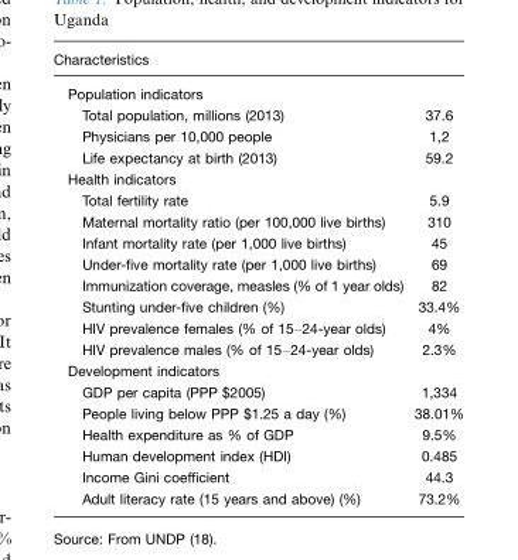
<table><thead><tr><td>Characteristics</td><td></td></tr></thead><tbody><tr><td colspan="2">Population indicators</td></tr><tr><td>Total population, millions (2013)</td><td>37.6</td></tr><tr><td>Physicians per 10,000 people</td><td>1,2</td></tr><tr><td>Life expectancy at birth (2013)</td><td>59.2</td></tr><tr><td colspan="2">Health indicators</td></tr><tr><td>Total fertility rate</td><td>5.9</td></tr><tr><td>Maternal mortality ratio (per 100,000 live births)</td><td>310</td></tr><tr><td>Infant mortality rate (per 1,000 live births)</td><td>45</td></tr><tr><td>Under-five mortality rate (per 1,000 live births)</td><td>69</td></tr><tr><td>Immunization coverage, measles (% of 1 year olds)</td><td>82</td></tr><tr><td>Stunting under-five children (%)</td><td>33.4%</td></tr><tr><td>HIV prevalence females (% of 15–24-year olds)</td><td>4%</td></tr><tr><td>HIV prevalence males (% of 15–24-year olds)</td><td>2.3%</td></tr><tr><td colspan="2">Development indicators</td></tr><tr><td>GDP per capita (PPP $2005)</td><td>1,334</td></tr><tr><td>People living below PPP $1.25 a day (%)</td><td>38.01%</td></tr><tr><td>Health expenditure as % of GDP</td><td>9.5%</td></tr><tr><td>Human development index (HDI)</td><td>0.485</td></tr><tr><td>Income Gini coefficient</td><td>44.3</td></tr><tr><td>Adult literacy rate (15 years and above) (%)</td><td>73.2%</td></tr></tbody></table>